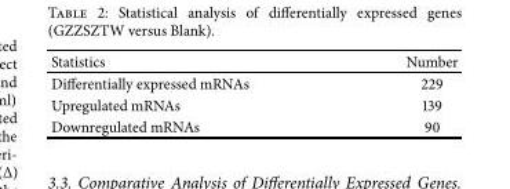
<table><thead><tr><td>Statistics</td><td>Number</td></tr></thead><tbody><tr><td>Differentially expressed mRNAs</td><td>229</td></tr><tr><td>Upregulated mRNAs</td><td>139</td></tr><tr><td>Downregulated mRNAs</td><td>90</td></tr></tbody></table>